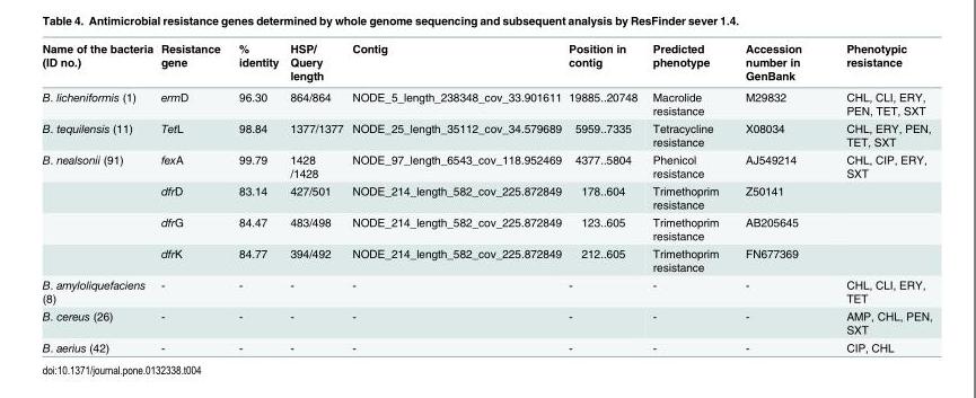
<table><thead><tr><td>Name of the bacteria (ID no.)</td><td>Resistance gene</td><td>% identity</td><td>HSP/ Query length</td><td>Contig</td><td>Position in contig</td><td>Predicted phenotype</td><td>Accession number in GenBank</td><td>Phenotypic resistance</td></tr></thead><tbody><tr><td>B. licheniformis (1)</td><td>ermD</td><td>96.30</td><td>864/864</td><td>NODE_5_length_238348_cov_33.901611</td><td>19885..20748</td><td>Macrolide resistance</td><td>M29832</td><td>CHL, CLI, ERY, PEN, TET, SXT</td></tr><tr><td>B. tequilensis (11)</td><td>TetL</td><td>98.84</td><td>1377/1377</td><td>NODE_25_length_35112_cov_34.579689</td><td>5959..7335</td><td>Tetracycline resistance</td><td>X08034</td><td>CHL, ERY, PEN, TET, SXT</td></tr><tr><td rowspan="4">B. nealsonii (91)</td><td>fexA</td><td>99.79</td><td>1428 /1428</td><td>NODE_97_length_6543_cov_118.952469</td><td>4377..5804</td><td>Phenicol resistance</td><td>AJ549214</td><td>CHL, CIP, ERY, SXT</td></tr><tr><td>dfrD</td><td>83.14</td><td>427/501</td><td>NODE_214_length_582_cov_225.872849</td><td>178..604</td><td>Trimethoprim resistance</td><td>Z50141</td><td></td></tr><tr><td>dfrG</td><td>84.47</td><td>483/498</td><td>NODE_214_length_582_cov_225.872849</td><td>123..605</td><td>Trimethoprim resistance</td><td>AB205645</td><td></td></tr><tr><td>dfrK</td><td>84.77</td><td>394/492</td><td>NODE_214_length_582_cov_225.872849</td><td>212..605</td><td>Trimethoprim resistance</td><td>FN677369</td><td></td></tr><tr><td>B. amyloliquefaciens (8)</td><td>-</td><td>-</td><td>-</td><td>-</td><td>-</td><td>-</td><td>-</td><td>CHL, CLI, ERY, TET</td></tr><tr><td>B. cereus (26)</td><td>-</td><td>-</td><td>-</td><td>-</td><td>-</td><td>-</td><td>-</td><td>AMP, CHL, PEN, SXT</td></tr><tr><td>B. aerius (42)</td><td>-</td><td>-</td><td>-</td><td>-</td><td>-</td><td>-</td><td>-</td><td>CIP, CHL</td></tr></tbody></table>